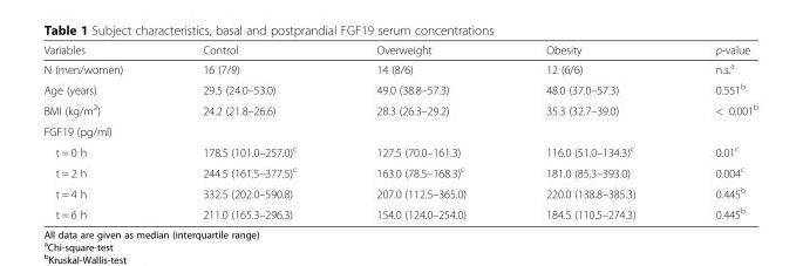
<table><thead><tr><td>Variables</td><td>Control</td><td>Overweight</td><td>Obesity</td><td>p-value</td></tr></thead><tbody><tr><td>N (men/women)</td><td>16 (7/9)</td><td>14 (8/6)</td><td>12 (6/6)</td><td>n.s.<sup>a</sup></td></tr><tr><td>Age (years)</td><td>29.5 (24.0–53.0)</td><td>49.0 (38.8–57.3)</td><td>48.0 (37.0–57.3)</td><td>0.551<sup>b</sup></td></tr><tr><td>BMI (kg/m<sup>2</sup>)</td><td>24.2 (21.8–26.6)</td><td>28.3 (26.3–29.2)</td><td>35.3 (32.7–39.0)</td><td>&lt; 0.001<sup>b</sup></td></tr><tr><td colspan="5">FGF19 (pg/ml)</td></tr><tr><td>t = 0 h</td><td>178.5 (101.0–257.0)<sup>c</sup></td><td>127.5 (70.0–161.3)</td><td>116.0 (51.0–134.3)<sup>c</sup></td><td>0.01<sup>c</sup></td></tr><tr><td>t = 2 h</td><td>244.5 (161.5–377.5)<sup>c</sup></td><td>163.0 (78.5–168.3)<sup>c</sup></td><td>181.0 (85.3–393.0)</td><td>0.004<sup>c</sup></td></tr><tr><td>t = 4 h</td><td>332.5 (202.0–590.8)</td><td>207.0 (112.5–365.0)</td><td>220.0 (138.8–385.3)</td><td>0.445<sup>b</sup></td></tr><tr><td>t = 6 h</td><td>211.0 (165.3–296.3)</td><td>154.0 (124.0–254.0)</td><td>184.5 (110.5–274.3)</td><td>0.445<sup>b</sup></td></tr></tbody></table>